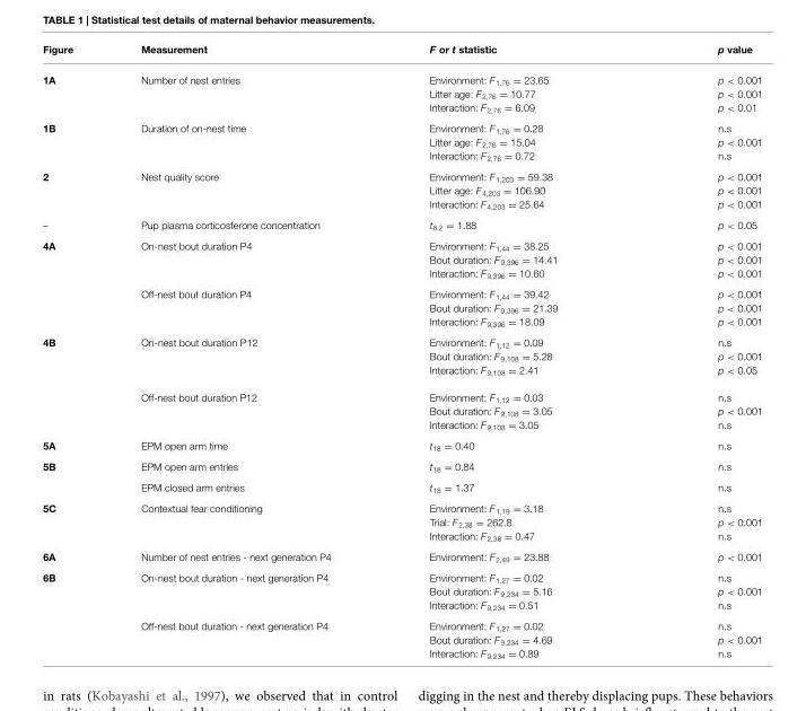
<table><thead><tr><td>Figure</td><td>Measurement</td><td>F or t statistic</td><td>p value</td></tr></thead><tbody><tr><td>1A</td><td>Number of nest entries</td><td>Environment: F<sub>1,76</sub> = 23.65 Litter age: F<sub>2,76</sub> = 10.77 Interaction: F<sub>2,76</sub> = 6.09</td><td>p &lt; 0.001 p &lt; 0.001 p &lt; 0.01</td></tr><tr><td>1B</td><td>Duration of on-nest time</td><td>Environment: F<sub>1,76</sub> = 0.28 Litter age: F<sub>2,76</sub> = 15.04 Interaction: F<sub>2,76</sub> = 0.72</td><td>n.s p &lt; 0.001 n.s</td></tr><tr><td>2</td><td>Nest quality score</td><td>Environment: F<sub>1,203</sub> = 59.38 Litter age: F<sub>4,203</sub> = 106.90 Interaction: F<sub>4,203</sub> = 25.64</td><td>p &lt; 0.001 p &lt; 0.001 p &lt; 0.001</td></tr><tr><td>–</td><td>Pup plasma corticosterone concentration</td><td>t<sub>8.2</sub> = 1.88</td><td>p &lt; 0.05</td></tr><tr><td rowspan="2">4A</td><td>On-nest bout duration P4</td><td>Environment: F<sub>1,44</sub> = 38.25 Bout duration: F<sub>9,396</sub> = 14.41 Interaction: F<sub>9,396</sub> = 10.60</td><td>p &lt; 0.001 p &lt; 0.001 p &lt; 0.001</td></tr><tr><td>Off-nest bout duration P4</td><td>Environment: F<sub>1,44</sub> = 39.42 Bout duration: F<sub>9,396</sub> = 21.39 Interaction: F<sub>9,396</sub> = 18.09</td><td>p &lt; 0.001 p &lt; 0.001 p &lt; 0.001</td></tr><tr><td rowspan="2">4B</td><td>On-nest bout duration P12</td><td>Environment: F<sub>1,12</sub> = 0.09 Bout duration: F<sub>9,108</sub> = 5.28 Interaction: F<sub>9,108</sub> = 2.41</td><td>n.s p &lt; 0.001 p &lt; 0.05</td></tr><tr><td>Off-nest bout duration P12</td><td>Environment: F<sub>1,12</sub> = 0.03 Bout duration: F<sub>9,108</sub> = 3.05 Interaction: F<sub>9,108</sub> = 3.05</td><td>n.s p &lt; 0.001 n.s</td></tr><tr><td>5A</td><td>EPM open arm time</td><td>t<sub>18</sub> = 0.40</td><td>n.s</td></tr><tr><td rowspan="2">5B</td><td>EPM open arm entries</td><td>t<sub>18</sub> = 0.84</td><td>n.s</td></tr><tr><td>EPM closed arm entries</td><td>t<sub>18</sub> = 1.37</td><td>n.s</td></tr><tr><td>5C</td><td>Contextual fear conditioning</td><td>Environment: F<sub>1,19</sub> = 3.18 Trial: F<sub>2,38</sub> = 262.8 Interaction: F<sub>2,38</sub> = 0.47</td><td>n.s p &lt; 0.001 n.s</td></tr><tr><td>6A</td><td>Number of nest entries - next generation P4</td><td>Environment: F<sub>2,49</sub> = 23.88</td><td>p &lt; 0.001</td></tr><tr><td rowspan="2">6B</td><td>On-nest bout duration - next generation P4</td><td>Environment: F<sub>1,27</sub> = 0.02 Bout duration: F<sub>9,234</sub> = 5.16 Interaction: F<sub>9,234</sub> = 0.51</td><td>n.s p &lt; 0.001 n.s</td></tr><tr><td>Off-nest bout duration - next generation P4</td><td>Environment: F<sub>1,27</sub> = 0.02 Bout duration: F<sub>9,234</sub> = 4.69 Interaction: F<sub>9,234</sub> = 0.89</td><td>n.s p &lt; 0.001 n.s</td></tr></tbody></table>